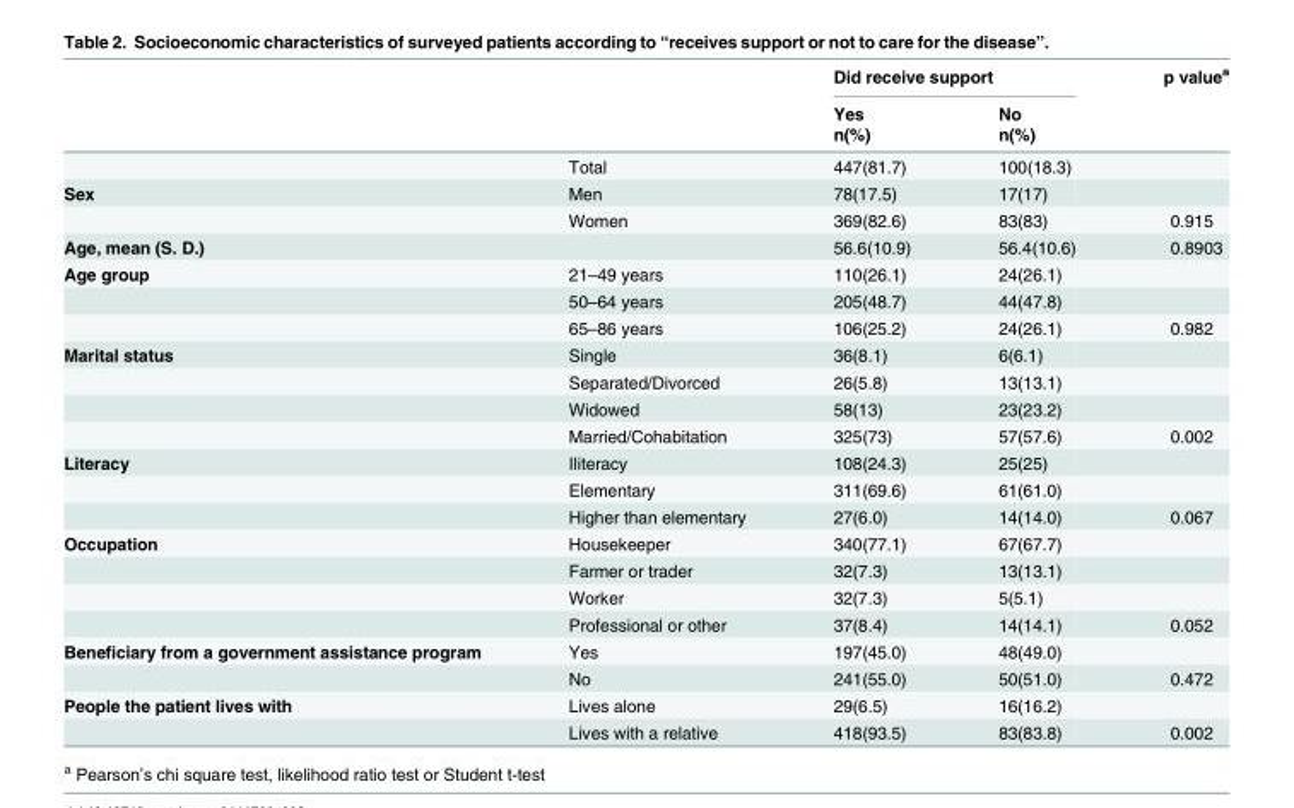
<table><thead><tr><td rowspan="3"></td><td rowspan="3"></td><td colspan="2">Did receive support</td><td rowspan="3">p value<sup>a</sup></td></tr><tr><td rowspan="2">Yes n(%)</td><td rowspan="2">No n(%)</td></tr><tr></tr></thead><tbody><tr><td></td><td>Total</td><td>447(81.7)</td><td>100(18.3)</td><td></td></tr><tr><td rowspan="2">Sex</td><td>Men</td><td>78(17.5)</td><td>17(17)</td><td></td></tr><tr><td>Women</td><td>369(82.6)</td><td>83(83)</td><td>0.915</td></tr><tr><td>Age, mean (S. D.)</td><td></td><td>56.6(10.9)</td><td>56.4(10.6)</td><td>0.8903</td></tr><tr><td rowspan="3">Age group</td><td>21–49 years</td><td>110(26.1)</td><td>24(26.1)</td><td></td></tr><tr><td>50–64 years</td><td>205(48.7)</td><td>44(47.8)</td><td></td></tr><tr><td>65–86 years</td><td>106(25.2)</td><td>24(26.1)</td><td>0.982</td></tr><tr><td rowspan="4">Marital status</td><td>Single</td><td>36(8.1)</td><td>6(6.1)</td><td></td></tr><tr><td>Separated/Divorced</td><td>26(5.8)</td><td>13(13.1)</td><td></td></tr><tr><td>Widowed</td><td>58(13)</td><td>23(23.2)</td><td></td></tr><tr><td>Married/Cohabitation</td><td>325(73)</td><td>57(57.6)</td><td>0.002</td></tr><tr><td rowspan="3">Literacy</td><td>Iliteracy</td><td>108(24.3)</td><td>25(25)</td><td></td></tr><tr><td>Elementary</td><td>311(69.6)</td><td>61(61.0)</td><td></td></tr><tr><td>Higher than elementary</td><td>27(6.0)</td><td>14(14.0)</td><td>0.067</td></tr><tr><td rowspan="4">Occupation</td><td>Housekeeper</td><td>340(77.1)</td><td>67(67.7)</td><td></td></tr><tr><td>Farmer or trader</td><td>32(7.3)</td><td>13(13.1)</td><td></td></tr><tr><td>Worker</td><td>32(7.3)</td><td>5(5.1)</td><td></td></tr><tr><td>Professional or other</td><td>37(8.4)</td><td>14(14.1)</td><td>0.052</td></tr><tr><td rowspan="2">Beneficiary from a government assistance program</td><td>Yes</td><td>197(45.0)</td><td>48(49.0)</td><td></td></tr><tr><td>No</td><td>241(55.0)</td><td>50(51.0)</td><td>0.472</td></tr><tr><td rowspan="2">People the patient lives with</td><td>Lives alone</td><td>29(6.5)</td><td>16(16.2)</td><td></td></tr><tr><td>Lives with a relative</td><td>418(93.5)</td><td>83(83.8)</td><td>0.002</td></tr></tbody></table>